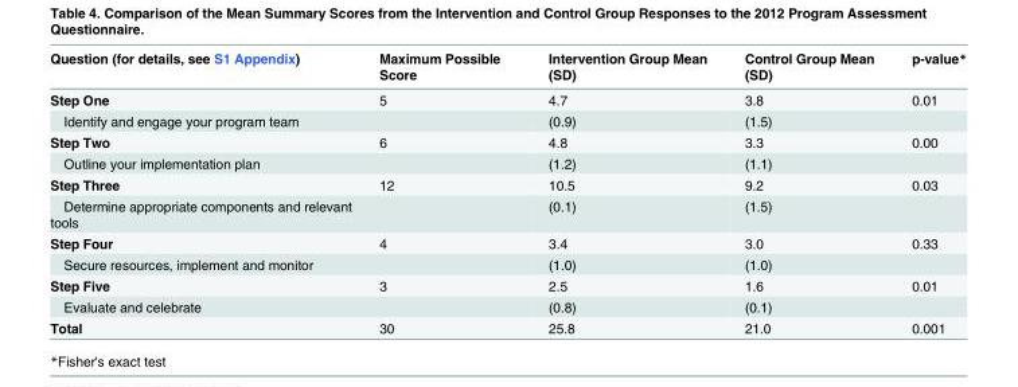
<table><thead><tr><td>Question (for details, see S1 Appendix)</td><td>Maximum Possible Score</td><td>Intervention Group Mean (SD)</td><td>Control Group Mean (SD)</td><td>p-value*</td></tr></thead><tbody><tr><td>Step One</td><td>5</td><td>4.7</td><td>3.8</td><td>0.01</td></tr><tr><td>Identify and engage your program team</td><td></td><td>(0.9)</td><td>(1.5)</td><td></td></tr><tr><td>Step Two</td><td>6</td><td>4.8</td><td>3.3</td><td>0.00</td></tr><tr><td>Outline your implementation plan</td><td></td><td>(1.2)</td><td>(1.1)</td><td></td></tr><tr><td>Step Three</td><td>12</td><td>10.5</td><td>9.2</td><td>0.03</td></tr><tr><td>Determine appropriate components and relevant tools</td><td></td><td>(0.1)</td><td>(1.5)</td><td></td></tr><tr><td>Step Four</td><td>4</td><td>3.4</td><td>3.0</td><td>0.33</td></tr><tr><td>Secure resources, implement and monitor</td><td></td><td>(1.0)</td><td>(1.0)</td><td></td></tr><tr><td>Step Five</td><td>3</td><td>2.5</td><td>1.6</td><td>0.01</td></tr><tr><td>Evaluate and celebrate</td><td></td><td>(0.8)</td><td>(0.1)</td><td></td></tr><tr><td>Total</td><td>30</td><td>25.8</td><td>21.0</td><td>0.001</td></tr></tbody></table>